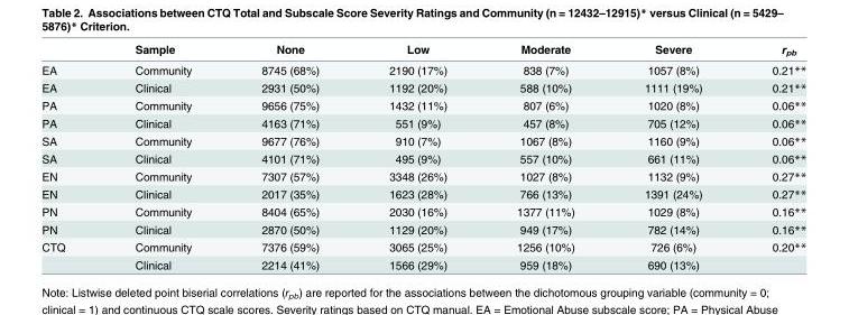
<table><thead><tr><td></td><td>Sample</td><td>None</td><td>Low</td><td>Moderate</td><td>Severe</td><td>r<sub>pb</sub></td></tr></thead><tbody><tr><td>EA</td><td>Community</td><td>8745 (68%)</td><td>2190 (17%)</td><td>838 (7%)</td><td>1057 (8%)</td><td>0.21**</td></tr><tr><td>EA</td><td>Clinical</td><td>2931 (50%)</td><td>1192 (20%)</td><td>588 (10%)</td><td>1111 (19%)</td><td>0.21**</td></tr><tr><td>PA</td><td>Community</td><td>9656 (75%)</td><td>1432 (11%)</td><td>807 (6%)</td><td>1020 (8%)</td><td>0.06**</td></tr><tr><td>PA</td><td>Clinical</td><td>4163 (71%)</td><td>551 (9%)</td><td>457 (8%)</td><td>705 (12%)</td><td>0.06**</td></tr><tr><td>SA</td><td>Community</td><td>9677 (76%)</td><td>910 (7%)</td><td>1067 (8%)</td><td>1160 (9%)</td><td>0.06**</td></tr><tr><td>SA</td><td>Clinical</td><td>4101 (71%)</td><td>495 (9%)</td><td>557 (10%)</td><td>661 (11%)</td><td>0.06**</td></tr><tr><td>EN</td><td>Community</td><td>7307 (57%)</td><td>3348 (26%)</td><td>1027 (8%)</td><td>1132 (9%)</td><td>0.27**</td></tr><tr><td>EN</td><td>Clinical</td><td>2017 (35%)</td><td>1623 (28%)</td><td>766 (13%)</td><td>1391 (24%)</td><td>0.27**</td></tr><tr><td>PN</td><td>Community</td><td>8404 (65%)</td><td>2030 (16%)</td><td>1377 (11%)</td><td>1029 (8%)</td><td>0.16**</td></tr><tr><td>PN</td><td>Clinical</td><td>2870 (50%)</td><td>1129 (20%)</td><td>949 (17%)</td><td>782 (14%)</td><td>0.16**</td></tr><tr><td rowspan="2">CTQ</td><td>Community</td><td>7376 (59%)</td><td>3065 (25%)</td><td>1256 (10%)</td><td>726 (6%)</td><td>0.20**</td></tr><tr><td>Clinical</td><td>2214 (41%)</td><td>1566 (29%)</td><td>959 (18%)</td><td>690 (13%)</td><td></td></tr></tbody></table>